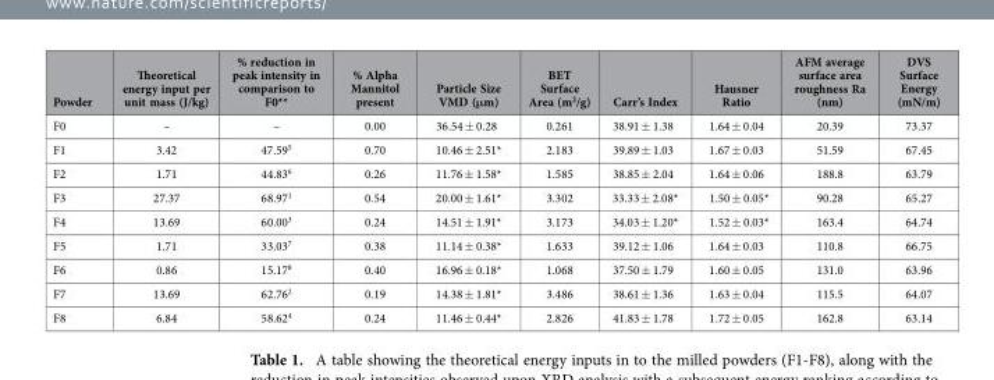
<table><thead><tr><td>Powder</td><td>Theoretical energy input per unit mass (J/kg)</td><td>% reduction in peak intensity in comparison to F0**</td><td>% Alpha Mannitol present</td><td>Particle Size VMD (μm)</td><td>BET Surface Area (m<sup>2</sup>/g)</td><td>Carr’s Index</td><td>Hausner Ratio</td><td>AFM average surface area roughness Ra (nm)</td><td>DVS Surface Energy (mN/m)</td></tr></thead><tbody><tr><td>F0</td><td>–</td><td>–</td><td>0.00</td><td>36.54 ± 0.28</td><td>0.261</td><td>38.91 ± 1.38</td><td>1.64 ± 0.04</td><td>20.39</td><td>73.37</td></tr><tr><td>F1</td><td>3.42</td><td>47.59<sup>5</sup></td><td>0.70</td><td>10.46 ± 2.51*</td><td>2.183</td><td>39.89 ± 1.03</td><td>1.67 ± 0.03</td><td>51.59</td><td>67.45</td></tr><tr><td>F2</td><td>1.71</td><td>44.83<sup>6</sup></td><td>0.26</td><td>11.76 ± 1.58*</td><td>1.585</td><td>38.85 ± 2.04</td><td>1.64 ± 0.06</td><td>188.8</td><td>63.79</td></tr><tr><td>F3</td><td>27.37</td><td>68.97<sup>1</sup></td><td>0.54</td><td>20.00 ± 1.61*</td><td>3.302</td><td>33.33 ± 2.08*</td><td>1.50 ± 0.05*</td><td>90.28</td><td>65.27</td></tr><tr><td>F4</td><td>13.69</td><td>60.00<sup>3</sup></td><td>0.24</td><td>14.51 ± 1.91*</td><td>3.173</td><td>34.03 ± 1.20*</td><td>1.52 ± 0.03*</td><td>163.4</td><td>64.74</td></tr><tr><td>F5</td><td>1.71</td><td>33.03<sup>7</sup></td><td>0.38</td><td>11.14 ± 0.38*</td><td>1.633</td><td>39.12 ± 1.06</td><td>1.64 ± 0.03</td><td>110.8</td><td>66.75</td></tr><tr><td>F6</td><td>0.86</td><td>15.17<sup>8</sup></td><td>0.40</td><td>16.96 ± 0.18*</td><td>1.068</td><td>37.50 ± 1.79</td><td>1.60 ± 0.05</td><td>131.0</td><td>63.96</td></tr><tr><td>F7</td><td>13.69</td><td>62.76<sup>2</sup></td><td>0.19</td><td>14.38 ± 1.81*</td><td>3.486</td><td>38.61 ± 1.36</td><td>1.63 ± 0.04</td><td>115.5</td><td>64.07</td></tr><tr><td>F8</td><td>6.84</td><td>58.62<sup>4</sup></td><td>0.24</td><td>11.46 ± 0.44*</td><td>2.826</td><td>41.83 ± 1.78</td><td>1.72 ± 0.05</td><td>162.8</td><td>63.14</td></tr></tbody></table>